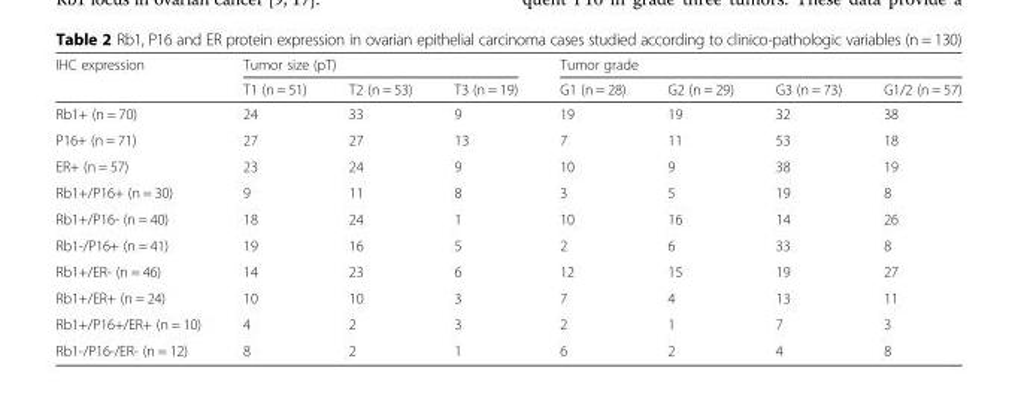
<table><thead><tr><td rowspan="2">IHC expression</td><td colspan="3">Tumor size (pT)</td><td colspan="4">Tumor grade</td></tr><tr><td>T1 (n = 51)</td><td>T2 (n = 53)</td><td>T3 (n = 19)</td><td>G1 (n = 28)</td><td>G2 (n = 29)</td><td>G3 (n = 73)</td><td>G1/2 (n = 57)</td></tr></thead><tbody><tr><td>Rb1+ (n = 70)</td><td>24</td><td>33</td><td>9</td><td>19</td><td>19</td><td>32</td><td>38</td></tr><tr><td>P16+ (n = 71)</td><td>27</td><td>27</td><td>13</td><td>7</td><td>11</td><td>53</td><td>18</td></tr><tr><td>ER+ (n = 57)</td><td>23</td><td>24</td><td>9</td><td>10</td><td>9</td><td>38</td><td>19</td></tr><tr><td>Rb1+/P16+ (n = 30)</td><td>9</td><td>11</td><td>8</td><td>3</td><td>5</td><td>19</td><td>8</td></tr><tr><td>Rb1+/P16- (n = 40)</td><td>18</td><td>24</td><td>1</td><td>10</td><td>16</td><td>14</td><td>26</td></tr><tr><td>Rb1-/P16+ (n = 41)</td><td>19</td><td>16</td><td>5</td><td>2</td><td>6</td><td>33</td><td>8</td></tr><tr><td>Rb1+/ER- (n = 46)</td><td>14</td><td>23</td><td>6</td><td>12</td><td>15</td><td>19</td><td>27</td></tr><tr><td>Rb1+/ER+ (n = 24)</td><td>10</td><td>10</td><td>3</td><td>7</td><td>4</td><td>13</td><td>11</td></tr><tr><td>Rb1+/P16+/ER+ (n = 10)</td><td>4</td><td>2</td><td>3</td><td>2</td><td>1</td><td>7</td><td>3</td></tr><tr><td>Rb1-/P16-/ER- (n = 12)</td><td>8</td><td>2</td><td>1</td><td>6</td><td>2</td><td>4</td><td>8</td></tr></tbody></table>